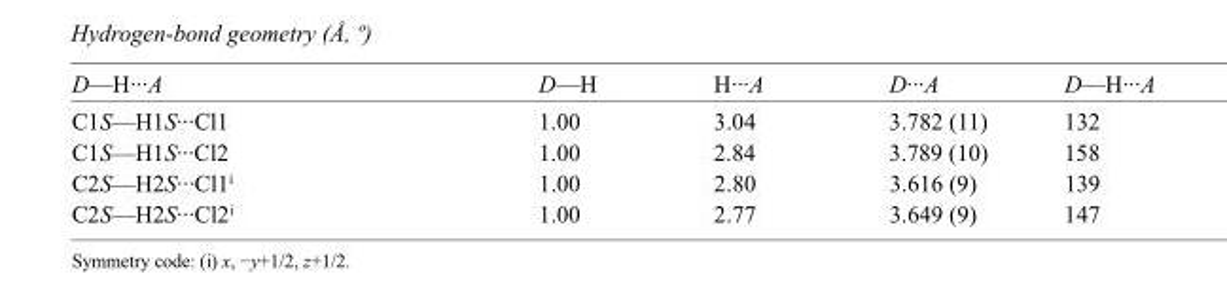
<table><tbody><tr><td>D—H···A</td><td>D—H</td><td>H···A</td><td>D···A</td><td>D—H···A</td></tr><tr><td>C1S—H1S···Cl1</td><td>1.00</td><td>3.04</td><td>3.782 (11)</td><td>132</td></tr><tr><td>C1S—H1S···Cl2</td><td>1.00</td><td>2.84</td><td>3.789 (10)</td><td>158</td></tr><tr><td>C2S—H2S···Cl1<sup>i</sup></td><td>1.00</td><td>2.80</td><td>3.616 (9)</td><td>139</td></tr><tr><td>C2S—H2S···Cl2<sup>i</sup></td><td>1.00</td><td>2.77</td><td>3.649 (9)</td><td>147</td></tr></tbody></table>